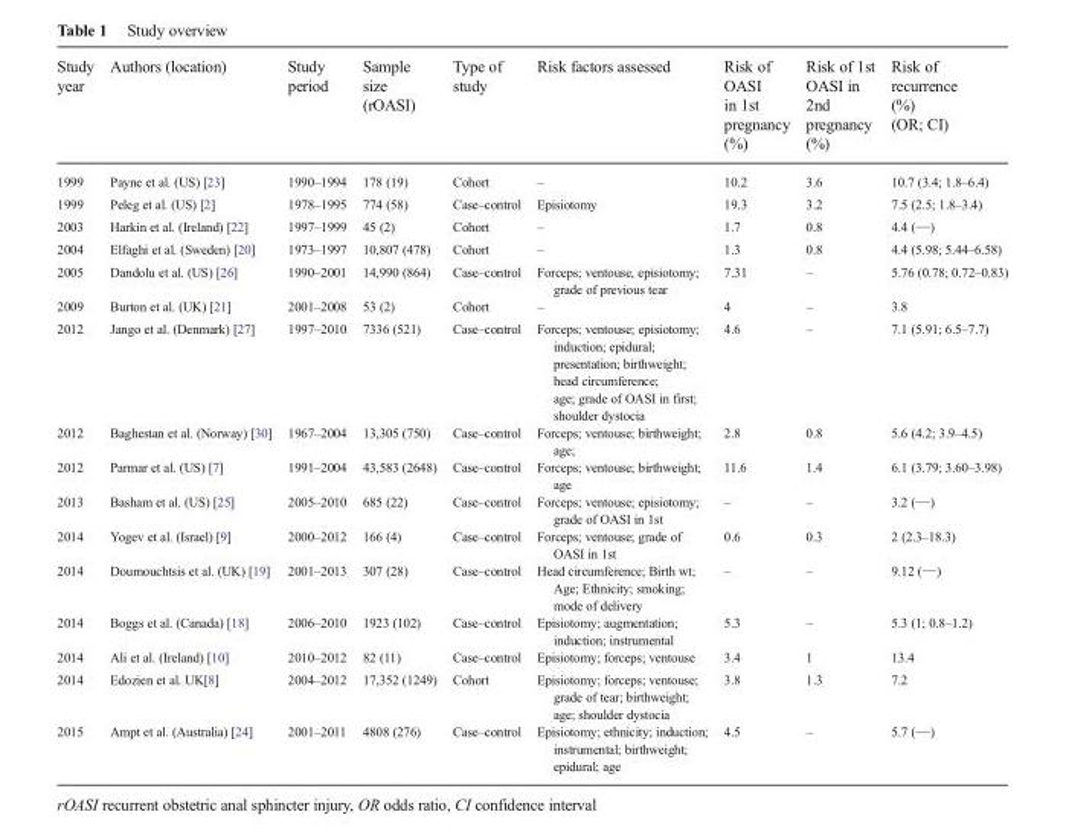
<table><thead><tr><td>Study year</td><td>Authors (location)</td><td>Study period</td><td>Sample size (rOASI)</td><td>Type of study</td><td>Risk factors assessed</td><td>Risk of OASI in 1st pregnancy (%)</td><td>Risk of 1st OASI in 2nd pregnancy (%)</td><td>Risk of recurrence (%) (OR; CI)</td></tr></thead><tbody><tr><td>1999</td><td>Payne et al. (US) [23]</td><td>1990–1994</td><td>178 (19)</td><td>Cohort</td><td>–</td><td>10.2</td><td>3.6</td><td>10.7 (3.4; 1.8–6.4)</td></tr><tr><td>1999</td><td>Peleg et al. (US) [2]</td><td>1978–1995</td><td>774 (58)</td><td>Case–control</td><td>Episiotomy</td><td>19.3</td><td>3.2</td><td>7.5 (2.5; 1.8–3.4)</td></tr><tr><td>2003</td><td>Harkin et al. (Ireland) [22]</td><td>1997–1999</td><td>45 (2)</td><td>Cohort</td><td>–</td><td>1.7</td><td>0.8</td><td>4.4 (−−)</td></tr><tr><td>2004</td><td>Elfaghi et al. (Sweden) [20]</td><td>1973–1997</td><td>10,807 (478)</td><td>Cohort</td><td>–</td><td>1.3</td><td>0.8</td><td>4.4 (5.98; 5.44–6.58)</td></tr><tr><td>2005</td><td>Dandolu et al. (US) [26]</td><td>1990–2001</td><td>14,990 (864)</td><td>Case–control</td><td>Forceps; ventouse, episiotomy; grade of previous tear</td><td>7.31</td><td>–</td><td>5.76 (0.78; 0.72–0.83)</td></tr><tr><td>2009</td><td>Burton et al. (UK) [21]</td><td>2001–2008</td><td>53 (2)</td><td>Cohort</td><td>–</td><td>4</td><td>–</td><td>3.8</td></tr><tr><td>2012</td><td>Jango et al. (Denmark) [27]</td><td>1997–2010</td><td>7336 (521)</td><td>Case–control</td><td>Forceps; ventouse; episiotomy; induction; epidural; presentation; birthweight; head circumference; age; grade of OASI in first; shoulder dystocia</td><td>4.6</td><td>–</td><td>7.1 (5.91; 6.5–7.7)</td></tr><tr><td>2012</td><td>Baghestan et al. (Norway) [30]</td><td>1967–2004</td><td>13,305 (750)</td><td>Case–control</td><td>Forceps; ventouse; birthweight; age;</td><td>2.8</td><td>0.8</td><td>5.6 (4.2; 3.9–4.5)</td></tr><tr><td>2012</td><td>Parmar et al. (US) [7]</td><td>1991–2004</td><td>43,583 (2648)</td><td>Case–control</td><td>Forceps; ventouse; birthweight; age</td><td>11.6</td><td>1.4</td><td>6.1 (3.79; 3.60–3.98)</td></tr><tr><td>2013</td><td>Basham et al. (US) [25]</td><td>2005–2010</td><td>685 (22)</td><td>Case–control</td><td>Forceps; ventouse; episiotomy; grade of OASI in 1st</td><td>–</td><td>–</td><td>3.2 (−−)</td></tr><tr><td>2014</td><td>Yogev et al. (Israel) [9]</td><td>2000–2012</td><td>166 (4)</td><td>Case–control</td><td>Forceps; ventouse; grade of OASI in 1st</td><td>0.6</td><td>0.3</td><td>2 (2.3–18.3)</td></tr><tr><td>2014</td><td>Doumouchtsis et al. (UK) [19]</td><td>2001–2013</td><td>307 (28)</td><td>Case–control</td><td>Head circumference; Birth wt; Age; Ethnicity; smoking; mode of delivery</td><td>–</td><td>–</td><td>9.12 (−−)</td></tr><tr><td>2014</td><td>Boggs et al. (Canada) [18]</td><td>2006–2010</td><td>1923 (102)</td><td>Case–control</td><td>Episiotomy; augmentation; induction; instrumental</td><td>5.3</td><td>–</td><td>5.3 (1; 0.8–1.2)</td></tr><tr><td>2014</td><td>Ali et al. (Ireland) [10]</td><td>2010–2012</td><td>82 (11)</td><td>Case–control</td><td>Episiotomy; forceps; ventouse</td><td>3.4</td><td>1</td><td>13.4</td></tr><tr><td>2014</td><td>Edozien et al. UK[8]</td><td>2004–2012</td><td>17,352 (1249)</td><td>Cohort</td><td>Episiotomy; forceps; ventouse; grade of tear; birthweight; age; shoulder dystocia</td><td>3.8</td><td>1.3</td><td>7.2</td></tr><tr><td>2015</td><td>Ampt et al. (Australia) [24]</td><td>2001–2011</td><td>4808 (276)</td><td>Case–control</td><td>Episiotomy; ethnicity; induction; instrumental; birthweight; epidural; age</td><td>4.5</td><td>–</td><td>5.7 (−−)</td></tr></tbody></table>